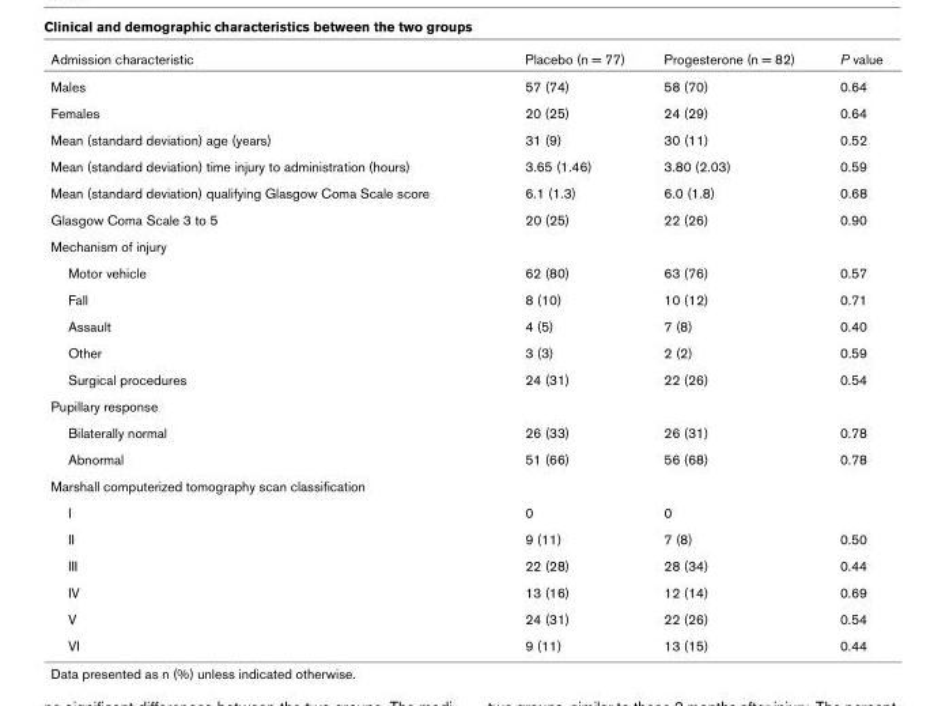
<table><thead><tr><td>Admission characteristic</td><td>Placebo (n = 77)</td><td>Progesterone (n = 82)</td><td>P value</td></tr></thead><tbody><tr><td>Males</td><td>57 (74)</td><td>58 (70)</td><td>0.64</td></tr><tr><td>Females</td><td>20 (25)</td><td>24 (29)</td><td>0.64</td></tr><tr><td>Mean (standard deviation) age (years)</td><td>31 (9)</td><td>30 (11)</td><td>0.52</td></tr><tr><td>Mean (standard deviation) time injury to administration (hours)</td><td>3.65 (1.46)</td><td>3.80 (2.03)</td><td>0.59</td></tr><tr><td>Mean (standard deviation) qualifying Glasgow Coma Scale score</td><td>6.1 (1.3)</td><td>6.0 (1.8)</td><td>0.68</td></tr><tr><td>Glasgow Coma Scale 3 to 5</td><td>20 (25)</td><td>22 (26)</td><td>0.90</td></tr><tr><td colspan="4">Mechanism of injury</td></tr><tr><td>Motor vehicle</td><td>62 (80)</td><td>63 (76)</td><td>0.57</td></tr><tr><td>Fall</td><td>8 (10)</td><td>10 (12)</td><td>0.71</td></tr><tr><td>Assault</td><td>4 (5)</td><td>7 (8)</td><td>0.40</td></tr><tr><td>Other</td><td>3 (3)</td><td>2 (2)</td><td>0.59</td></tr><tr><td>Surgical procedures</td><td>24 (31)</td><td>22 (26)</td><td>0.54</td></tr><tr><td colspan="4">Pupillary response</td></tr><tr><td>Bilaterally normal</td><td>26 (33)</td><td>26 (31)</td><td>0.78</td></tr><tr><td>Abnormal</td><td>51 (66)</td><td>56 (68)</td><td>0.78</td></tr><tr><td colspan="4">Marshall computerized tomography scan classification</td></tr><tr><td>I</td><td>0</td><td>0</td><td></td></tr><tr><td>II</td><td>9 (11)</td><td>7 (8)</td><td>0.50</td></tr><tr><td>III</td><td>22 (28)</td><td>28 (34)</td><td>0.44</td></tr><tr><td>IV</td><td>13 (16)</td><td>12 (14)</td><td>0.69</td></tr><tr><td>V</td><td>24 (31)</td><td>22 (26)</td><td>0.54</td></tr><tr><td>VI</td><td>9 (11)</td><td>13 (15)</td><td>0.44</td></tr></tbody></table>